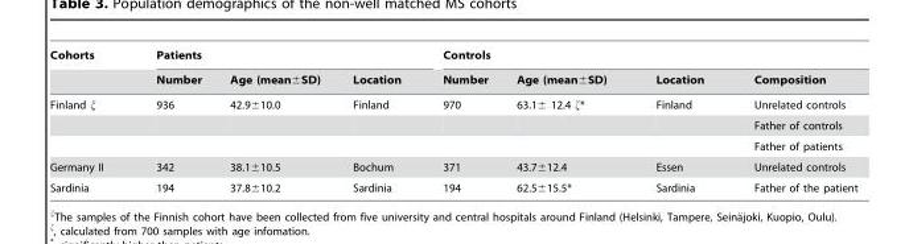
<table><thead><tr><td rowspan="2">Cohorts</td><td colspan="3">Patients</td><td colspan="4">Controls</td></tr><tr><td>Number</td><td>Age (mean±SD)</td><td>Location</td><td>Number</td><td>Age (mean±SD)</td><td>Location</td><td>Composition</td></tr></thead><tbody><tr><td rowspan="3">Finland ξ</td><td>936</td><td>42.9±10.0</td><td>Finland</td><td>970</td><td>63.1± 12.4 ζ*</td><td>Finland</td><td>Unrelated controls</td></tr><tr><td></td><td></td><td></td><td></td><td></td><td></td><td>Father of controls</td></tr><tr><td></td><td></td><td></td><td></td><td></td><td></td><td>Father of patients</td></tr><tr><td>Germany II</td><td>342</td><td>38.1±10.5</td><td>Bochum</td><td>371</td><td>43.7±12.4</td><td>Essen</td><td>Unrelated controls</td></tr><tr><td>Sardinia</td><td>194</td><td>37.8±10.2</td><td>Sardinia</td><td>194</td><td>62.5±15.5*</td><td>Sardinia</td><td>Father of the patient</td></tr></tbody></table>